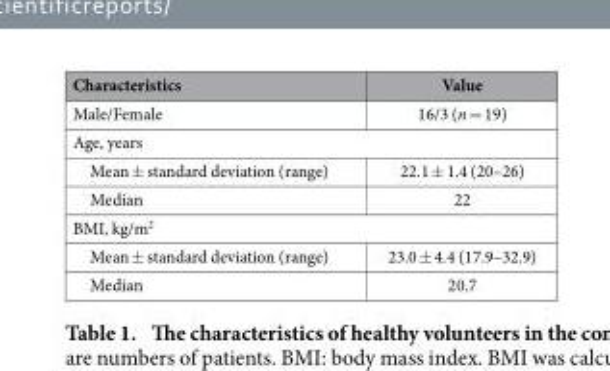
<table><thead><tr><td>Characteristics</td><td>Value</td></tr></thead><tbody><tr><td>Male/Female</td><td>16/3 (n = 19)</td></tr><tr><td colspan="2">Age, years</td></tr><tr><td>Mean ± standard deviation (range)</td><td>22.1 ± 1.4 (20–26)</td></tr><tr><td>Median</td><td>22</td></tr><tr><td colspan="2">BMI, kg/m<sup>2</sup></td></tr><tr><td>Mean ± standard deviation (range)</td><td>23.0 ± 4.4 (17.9–32.9)</td></tr><tr><td>Median</td><td>20.7</td></tr></tbody></table>